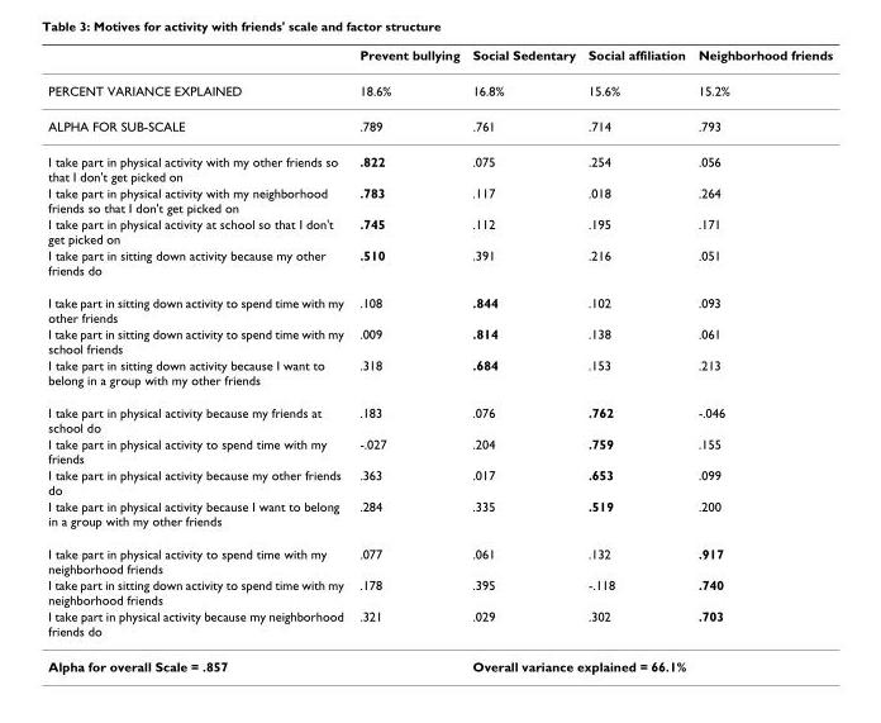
<table><thead><tr><td></td><td>Prevent bullying</td><td>Social Sedentary</td><td>Social affiliation</td><td>Neighborhood friends</td></tr></thead><tbody><tr><td>PERCENT VARIANCE EXPLAINED</td><td>18.6%</td><td>16.8%</td><td>15.6%</td><td>15.2%</td></tr><tr><td>ALPHA FOR SUB-SCALE</td><td>.789</td><td>.761</td><td>.714</td><td>.793</td></tr><tr><td>I take part in physical activity with my other friends so that I don&#x27;t get picked on</td><td>.822</td><td>.075</td><td>.254</td><td>.056</td></tr><tr><td>I take part in physical activity with my neighborhood friends so that I don&#x27;t get picked on</td><td>.783</td><td>.117</td><td>.018</td><td>.264</td></tr><tr><td>I take part in physical activity at school so that I don&#x27;t get picked on</td><td>.745</td><td>.112</td><td>.195</td><td>.171</td></tr><tr><td>I take part in sitting down activity because my other friends do</td><td>.510</td><td>.391</td><td>.216</td><td>.051</td></tr><tr><td>I take part in sitting down activity to spend time with my other friends</td><td>.108</td><td>.844</td><td>.102</td><td>.093</td></tr><tr><td>I take part in sitting down activity to spend time with my school friends</td><td>.009</td><td>.814</td><td>.138</td><td>.061</td></tr><tr><td>I take part in sitting down activity because I want to belong in a group with my other friends</td><td>.318</td><td>.684</td><td>.153</td><td>.213</td></tr><tr><td>I take part in physical activity because my friends at school do</td><td>.183</td><td>.076</td><td>.762</td><td>-.046</td></tr><tr><td>I take part in physical activity to spend time with my friends</td><td>-.027</td><td>.204</td><td>.759</td><td>.155</td></tr><tr><td>I take part in physical activity because my other friends do</td><td>.363</td><td>.017</td><td>.653</td><td>.099</td></tr><tr><td>I take part in physical activity because I want to belong in a group with my other friends</td><td>.284</td><td>.335</td><td>.519</td><td>.200</td></tr><tr><td>I take part in physical activity to spend time with my neighborhood friends</td><td>.077</td><td>.061</td><td>.132</td><td>.917</td></tr><tr><td>I take part in sitting down activity to spend time with my neighborhood friends</td><td>.178</td><td>.395</td><td>-.118</td><td>.740</td></tr><tr><td>I take part in physical activity because my neighborhood friends do</td><td>.321</td><td>.029</td><td>.302</td><td>.703</td></tr><tr><td>Alpha for overall Scale = .857</td><td></td><td colspan="3">Overall variance explained = 66.1%</td></tr></tbody></table>